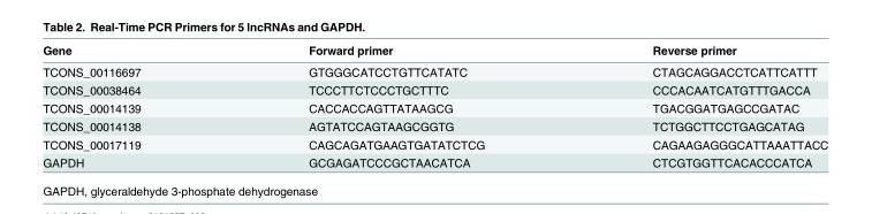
<table><thead><tr><td>Gene</td><td>Forward primer</td><td>Reverse primer</td></tr></thead><tbody><tr><td>TCONS_00116697</td><td>GTGGGCATCCTGTTCATATC</td><td>CTAGCAGGACCTCATTCATTT</td></tr><tr><td>TCONS_00038464</td><td>TCCCTTCTCCCTGCTTTC</td><td>CCCACAATCATGTTTGACCA</td></tr><tr><td>TCONS_00014139</td><td>CACCACCAGTTATAAGCG</td><td>TGACGGATGAGCCGATAC</td></tr><tr><td>TCONS_00014138</td><td>AGTATCCAGTAAGCGGTG</td><td>TCTGGCTTCCTGAGCATAG</td></tr><tr><td>TCONS_00017119</td><td>CAGCAGATGAAGTGATATCTCG</td><td>CAGAAGAGGGCATTAAATTACC</td></tr><tr><td>GAPDH</td><td>GCGAGATCCCGCTAACATCA</td><td>CTCGTGGTTCACACCCATCA</td></tr></tbody></table>